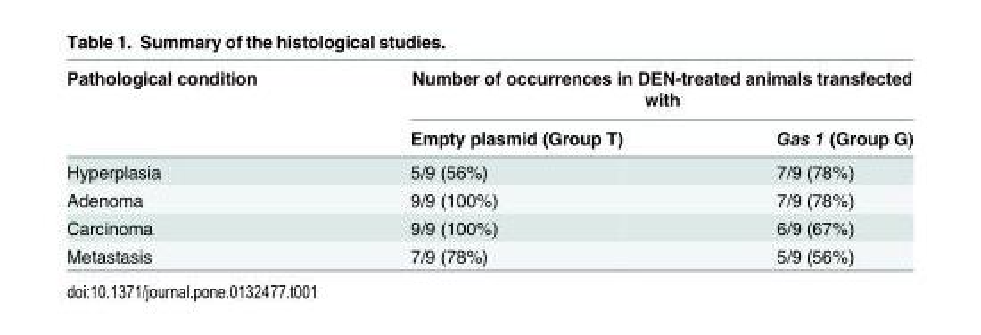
<table><thead><tr><td rowspan="2">Pathological condition</td><td colspan="2">Number of occurrences in DEN-treated animals transfected with</td></tr><tr><td>Empty plasmid (Group T)</td><td>Gas 1 (Group G)</td></tr></thead><tbody><tr><td>Hyperplasia</td><td>5/9 (56%)</td><td>7/9 (78%)</td></tr><tr><td>Adenoma</td><td>9/9 (100%)</td><td>7/9 (78%)</td></tr><tr><td>Carcinoma</td><td>9/9 (100%)</td><td>6/9 (67%)</td></tr><tr><td>Metastasis</td><td>7/9 (78%)</td><td>5/9 (56%)</td></tr></tbody></table>